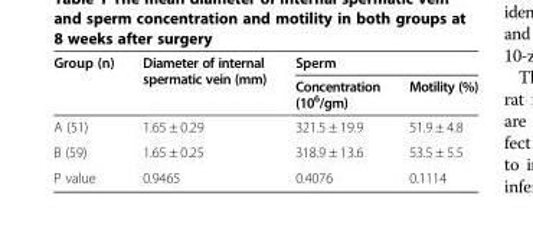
<table><thead><tr><td rowspan="2">Group (n)</td><td rowspan="2">Diameter of internal spermatic vein (mm)</td><td colspan="2">Sperm</td></tr><tr><td>Concentration (10<sup>6</sup>/gm)</td><td>Motility (%)</td></tr></thead><tbody><tr><td>A (51)</td><td>1.65 ± 0.29</td><td>321.5 ± 19.9</td><td>51.9 ± 4.8</td></tr><tr><td>B (59)</td><td>1.65 ± 0.25</td><td>318.9 ± 13.6</td><td>53.5 ± 5.5</td></tr><tr><td>P value</td><td>0.9465</td><td>0.4076</td><td>0.1114</td></tr></tbody></table>